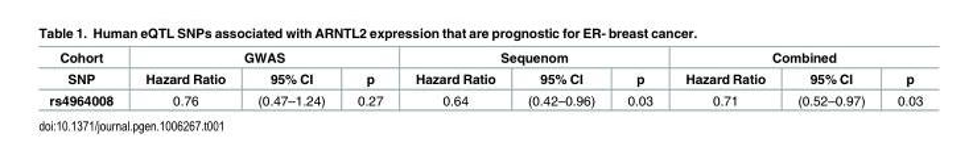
<table><thead><tr><td rowspan="2">Cohort SNP</td><td colspan="3">GWAS</td><td colspan="3">Sequenom</td><td colspan="3">Combined</td></tr><tr><td>Hazard Ratio</td><td>95% CI</td><td>p</td><td>Hazard Ratio</td><td>95% CI</td><td>p</td><td>Hazard Ratio</td><td>95% CI</td><td>p</td></tr></thead><tbody><tr><td>rs4964008</td><td>0.76</td><td>(0.47–1.24)</td><td>0.27</td><td>0.64</td><td>(0.42–0.96)</td><td>0.03</td><td>0.71</td><td>(0.52–0.97)</td><td>0.03</td></tr></tbody></table>